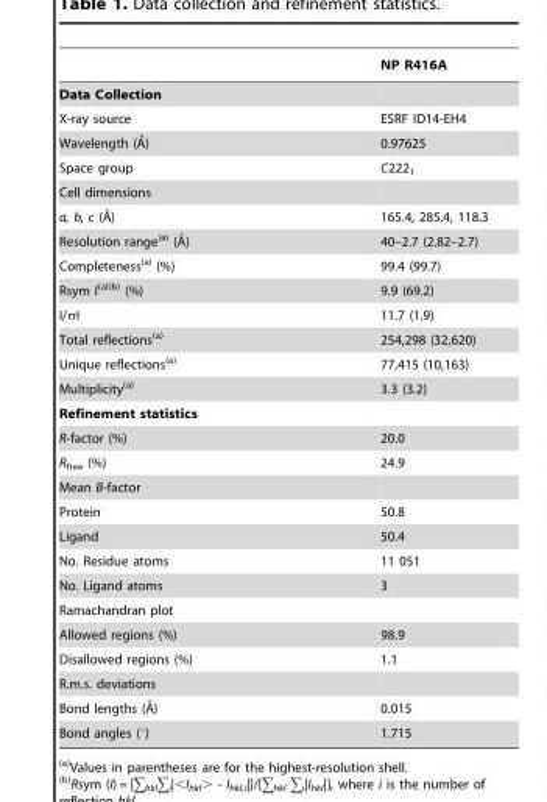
<table><thead><tr><td></td><td>NP R416A</td></tr></thead><tbody><tr><td colspan="2">Data Collection</td></tr><tr><td>X-ray source</td><td>ESRF ID14-EH4</td></tr><tr><td>Wavelength (A˚)</td><td>0.97625</td></tr><tr><td>Space group</td><td>C222<sub>1</sub></td></tr><tr><td colspan="2">Cell dimensions</td></tr><tr><td>a, b, c (A˚)</td><td>165.4, 285.4, 118.3</td></tr><tr><td>Resolution range(a) (A˚)</td><td>40–2.7 (2.82–2.7)</td></tr><tr><td>Completeness(a) (%)</td><td>99.4 (99.7)</td></tr><tr><td>Rsym I(a)(b) (%)</td><td>9.9 (69.2)</td></tr><tr><td>I/σI</td><td>11.7 (1.9)</td></tr><tr><td>Total reflections(a)</td><td>254,298 (32,620)</td></tr><tr><td>Unique reflections(a)</td><td>77,415 (10,163)</td></tr><tr><td>Multiplicity(a)</td><td>3.3 (3.2)</td></tr><tr><td colspan="2">Refinement statistics</td></tr><tr><td>R-factor (%)</td><td>20.0</td></tr><tr><td>R<sub>free</sub> (%)</td><td>24.9</td></tr><tr><td colspan="2">Mean B-factor</td></tr><tr><td>Protein</td><td>50.8</td></tr><tr><td>Ligand</td><td>50.4</td></tr><tr><td>No. Residue atoms</td><td>11 051</td></tr><tr><td>No. Ligand atoms</td><td>3</td></tr><tr><td colspan="2">Ramachandran plot</td></tr><tr><td>Allowed regions (%)</td><td>98.9</td></tr><tr><td>Disallowed regions (%)</td><td>1.1</td></tr><tr><td colspan="2">R.m.s. deviations</td></tr><tr><td>Bond lengths (A˚)</td><td>0.015</td></tr><tr><td>Bond angles (°)</td><td>1.715</td></tr></tbody></table>